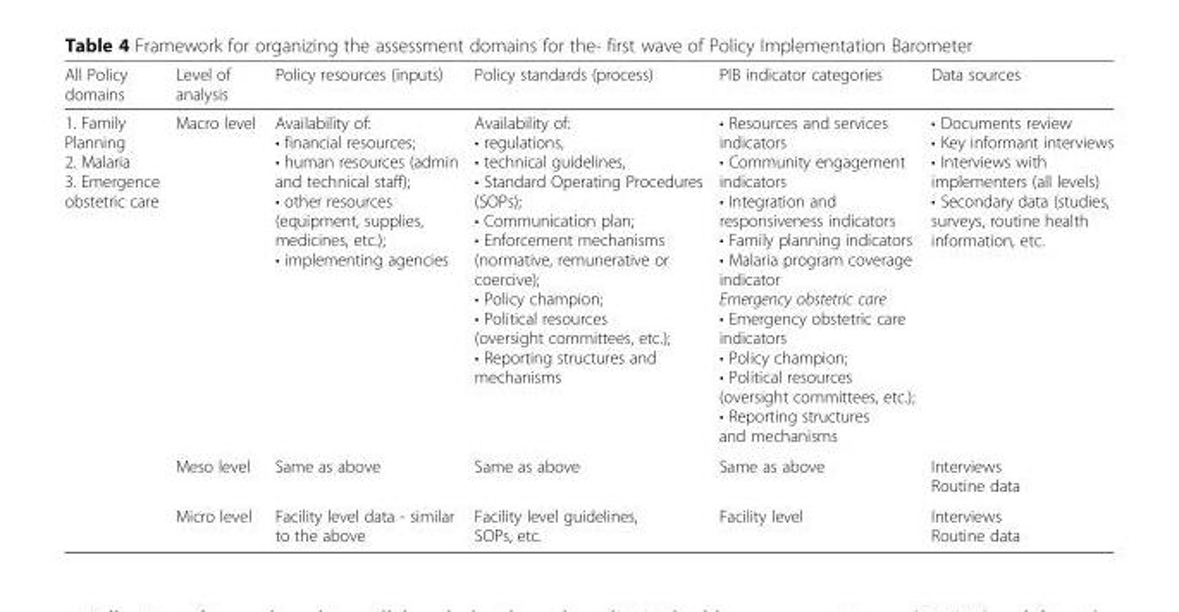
<table><thead><tr><td>All Policy domains</td><td>Level of analysis</td><td>Policy resources (inputs)</td><td>Policy standards (process)</td><td>PIB indicator categories</td><td>Data sources</td></tr></thead><tbody><tr><td rowspan="3">1. Family Planning 2. Malaria 3. Emergence obstetric care</td><td>Macro level</td><td>Availability of: • financial resources; • human resources (admin and technical staff); • other resources (equipment, supplies, medicines, etc.); • implementing agencies</td><td>Availability of: • regulations, • technical guidelines, • Standard Operating Procedures (SOPs); • Communication plan; • Enforcement mechanisms (normative, remunerative or coercive); • Policy champion; • Political resources (oversight committees, etc.); • Reporting structures and mechanisms</td><td>• Resources and services indicators • Community engagement indicators • Integration and responsiveness indicators • Family planning indicators • Malaria program coverage indicator Emergency obstetric care • Emergency obstetric care indicators • Policy champion; • Political resources (oversight committees, etc.); • Reporting structures and mechanisms</td><td>• Documents review • Key informant interviews • Interviews with implementers (all levels) • Secondary data (studies, surveys, routine health information, etc.</td></tr><tr><td>Meso level</td><td>Same as above</td><td>Same as above</td><td>Same as above</td><td>Interviews Routine data</td></tr><tr><td>Micro level</td><td>Facility level data - similar to the above</td><td>Facility level guidelines, SOPs, etc.</td><td>Facility level</td><td>Interviews Routine data</td></tr></tbody></table>